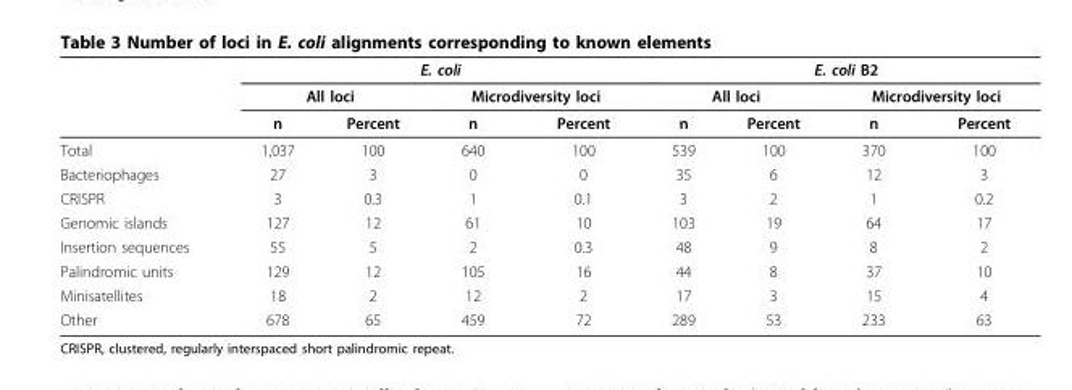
<table><thead><tr><td rowspan="3"></td><td colspan="4">E. coli</td><td colspan="4">E. coli B2</td></tr><tr><td colspan="2">All loci</td><td colspan="2">Microdiversity loci</td><td colspan="2">All loci</td><td colspan="2">Microdiversity loci</td></tr><tr><td>n</td><td>Percent</td><td>n</td><td>Percent</td><td>n</td><td>Percent</td><td>n</td><td>Percent</td></tr></thead><tbody><tr><td>Total</td><td>1,037</td><td>100</td><td>640</td><td>100</td><td>539</td><td>100</td><td>370</td><td>100</td></tr><tr><td>Bacteriophages</td><td>27</td><td>3</td><td>0</td><td>0</td><td>35</td><td>6</td><td>12</td><td>3</td></tr><tr><td>CRISPR</td><td>3</td><td>0.3</td><td>1</td><td>0.1</td><td>3</td><td>2</td><td>1</td><td>0.2</td></tr><tr><td>Genomic islands</td><td>127</td><td>12</td><td>61</td><td>10</td><td>103</td><td>19</td><td>64</td><td>17</td></tr><tr><td>Insertion sequences</td><td>55</td><td>5</td><td>2</td><td>0.3</td><td>48</td><td>9</td><td>8</td><td>2</td></tr><tr><td>Palindromic units</td><td>129</td><td>12</td><td>105</td><td>16</td><td>44</td><td>8</td><td>37</td><td>10</td></tr><tr><td>Minisatellites</td><td>18</td><td>2</td><td>12</td><td>2</td><td>17</td><td>3</td><td>15</td><td>4</td></tr><tr><td>Other</td><td>678</td><td>65</td><td>459</td><td>72</td><td>289</td><td>53</td><td>233</td><td>63</td></tr></tbody></table>